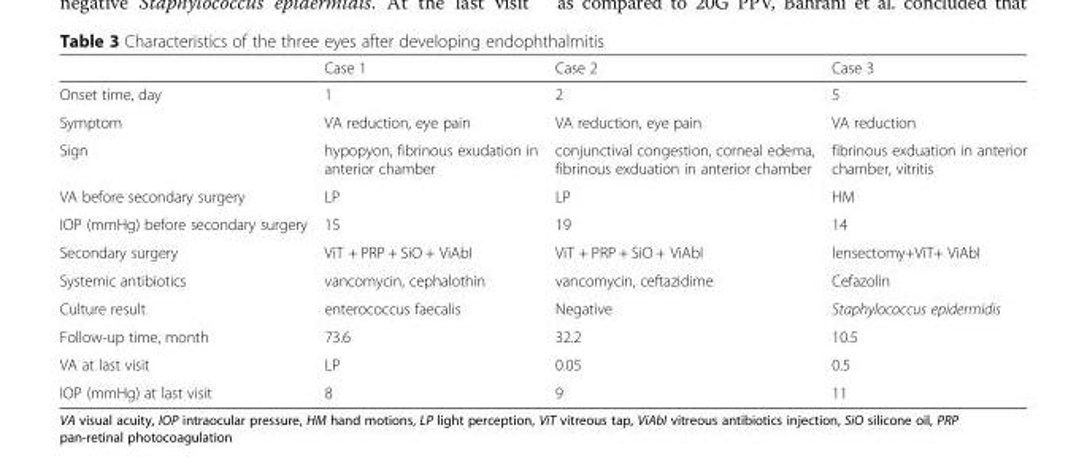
<table><thead><tr><td></td><td>Case 1</td><td>Case 2</td><td>Case 3</td></tr></thead><tbody><tr><td>Onset time, day</td><td>1</td><td>2</td><td>5</td></tr><tr><td>Symptom</td><td>VA reduction, eye pain</td><td>VA reduction, eye pain</td><td>VA reduction</td></tr><tr><td>Sign</td><td>hypopyon, fibrinous exudation in anterior chamber</td><td>conjunctival congestion, corneal edema, fibrinous exduation in anterior chamber</td><td>fibrinous exduation in anterior chamber, vitritis</td></tr><tr><td>VA before secondary surgery</td><td>LP</td><td>LP</td><td>HM</td></tr><tr><td>IOP (mmHg) before secondary surgery</td><td>15</td><td>19</td><td>14</td></tr><tr><td>Secondary surgery</td><td>ViT + PRP + SiO + ViAbI</td><td>ViT + PRP + SiO + ViAbI</td><td>lensectomy+ViT+ ViAbI</td></tr><tr><td>Systemic antibiotics</td><td>vancomycin, cephalothin</td><td>vancomycin, ceftazidime</td><td>Cefazolin</td></tr><tr><td>Culture result</td><td>enterococcus faecalis</td><td>Negative</td><td>Staphylococcus epidermidis</td></tr><tr><td>Follow-up time, month</td><td>73.6</td><td>32.2</td><td>10.5</td></tr><tr><td>VA at last visit</td><td>LP</td><td>0.05</td><td>0.5</td></tr><tr><td>IOP (mmHg) at last visit</td><td>8</td><td>9</td><td>11</td></tr></tbody></table>